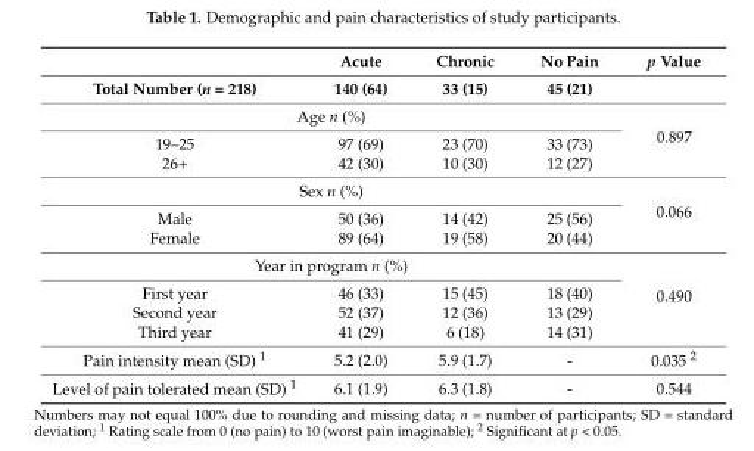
<table><thead><tr><td rowspan="2">Total Number (n = 218)</td><td rowspan="2">Acute 140 (64)</td><td rowspan="2">Chronic 33 (15)</td><td rowspan="2">No Pain 45 (21)</td><td rowspan="2">p Value</td></tr><tr></tr></thead><tbody><tr><td colspan="4">Age n (%)</td><td rowspan="3">0.897</td></tr><tr><td>19–25</td><td>97 (69)</td><td>23 (70)</td><td>33 (73)</td></tr><tr><td>26+</td><td>42 (30)</td><td>10 (30)</td><td>12 (27)</td></tr><tr><td colspan="4">Sex n (%)</td><td rowspan="3">0.066</td></tr><tr><td>Male</td><td>50 (36)</td><td>14 (42)</td><td>25 (56)</td></tr><tr><td>Female</td><td>89 (64)</td><td>19 (58)</td><td>20 (44)</td></tr><tr><td colspan="4">Year in program n (%)</td><td rowspan="4">0.490</td></tr><tr><td>First year</td><td>46 (33)</td><td>15 (45)</td><td>18 (40)</td></tr><tr><td>Second year</td><td>52 (37)</td><td>12 (36)</td><td>13 (29)</td></tr><tr><td>Third year</td><td>41 (29)</td><td>6 (18)</td><td>14 (31)</td></tr><tr><td>Pain intensity mean (SD) <sup>1</sup></td><td>5.2 (2.0)</td><td>5.9 (1.7)</td><td>-</td><td>0.035 <sup>2</sup></td></tr><tr><td>Level of pain tolerated mean (SD) <sup>1</sup></td><td>6.1 (1.9)</td><td>6.3 (1.8)</td><td>-</td><td>0.544</td></tr></tbody></table>